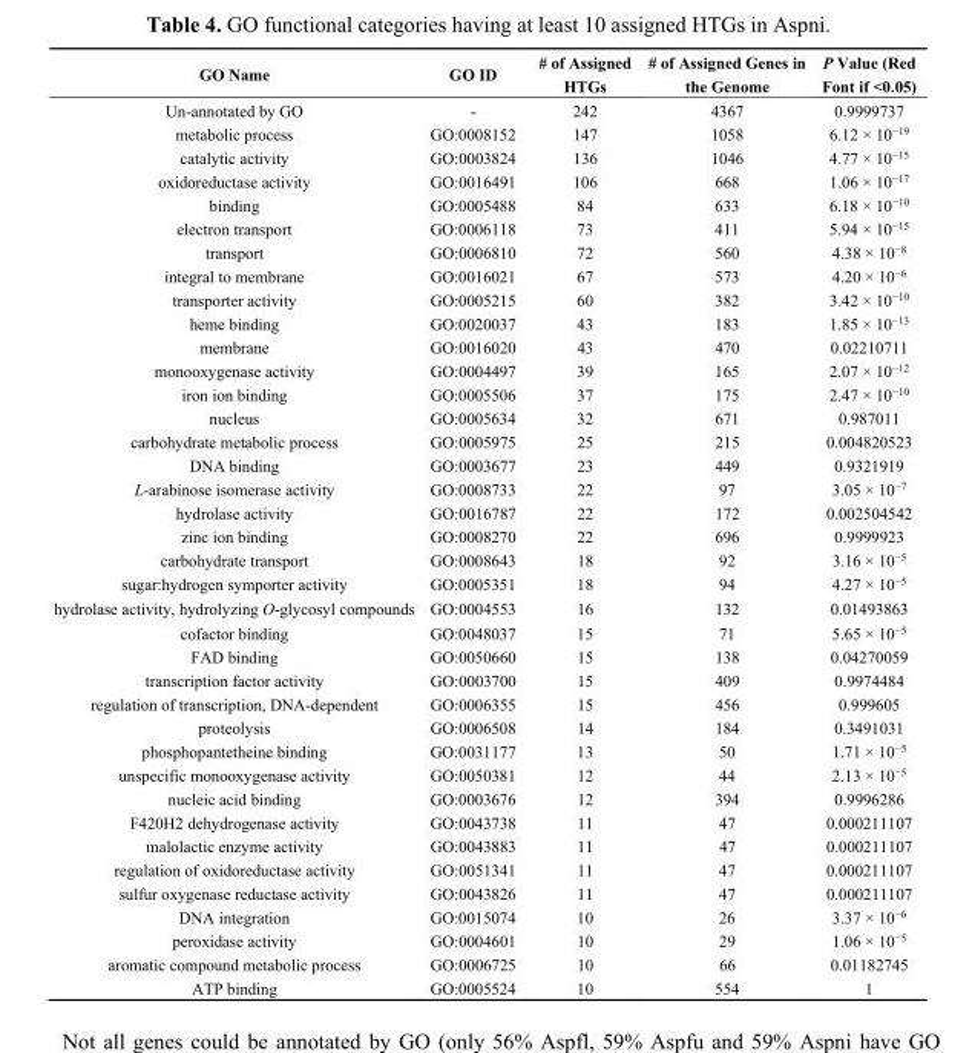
<table><thead><tr><td>GO Name</td><td>GO ID</td><td># of Assigned HTGs</td><td># of Assigned Genes in the Genome</td><td>P Value (Red Font if &lt;0.05)</td></tr></thead><tbody><tr><td>Un-annotated by GO</td><td>-</td><td>242</td><td>4367</td><td>0.9999737</td></tr><tr><td>metabolic process</td><td>GO:0008152</td><td>147</td><td>1058</td><td>6.12 × 10<sup>−19</sup></td></tr><tr><td>catalytic activity</td><td>GO:0003824</td><td>136</td><td>1046</td><td>4.77 × 10<sup>−15</sup></td></tr><tr><td>oxidoreductase activity</td><td>GO:0016491</td><td>106</td><td>668</td><td>1.06 × 10<sup>−17</sup></td></tr><tr><td>binding</td><td>GO:0005488</td><td>84</td><td>633</td><td>6.18 × 10<sup>−10</sup></td></tr><tr><td>electron transport</td><td>GO:0006118</td><td>73</td><td>411</td><td>5.94 × 10<sup>−15</sup></td></tr><tr><td>transport</td><td>GO:0006810</td><td>72</td><td>560</td><td>4.38 × 10<sup>−8</sup></td></tr><tr><td>integral to membrane</td><td>GO:0016021</td><td>67</td><td>573</td><td>4.20 × 10<sup>−6</sup></td></tr><tr><td>transporter activity</td><td>GO:0005215</td><td>60</td><td>382</td><td>3.42 × 10<sup>−10</sup></td></tr><tr><td>heme binding</td><td>GO:0020037</td><td>43</td><td>183</td><td>1.85 × 10<sup>−13</sup></td></tr><tr><td>membrane</td><td>GO:0016020</td><td>43</td><td>470</td><td>0.02210711</td></tr><tr><td>monooxygenase activity</td><td>GO:0004497</td><td>39</td><td>165</td><td>2.07 × 10<sup>−12</sup></td></tr><tr><td>iron ion binding</td><td>GO:0005506</td><td>37</td><td>175</td><td>2.47 × 10<sup>−10</sup></td></tr><tr><td>nucleus</td><td>GO:0005634</td><td>32</td><td>671</td><td>0.987011</td></tr><tr><td>carbohydrate metabolic process</td><td>GO:0005975</td><td>25</td><td>215</td><td>0.004820523</td></tr><tr><td>DNA binding</td><td>GO:0003677</td><td>23</td><td>449</td><td>0.9321919</td></tr><tr><td>L-arabinose isomerase activity</td><td>GO:0008733</td><td>22</td><td>97</td><td>3.05 × 10<sup>−7</sup></td></tr><tr><td>hydrolase activity</td><td>GO:0016787</td><td>22</td><td>172</td><td>0.002504542</td></tr><tr><td>zinc ion binding</td><td>GO:0008270</td><td>22</td><td>696</td><td>0.9999923</td></tr><tr><td>carbohydrate transport</td><td>GO:0008643</td><td>18</td><td>92</td><td>3.16 × 10<sup>−5</sup></td></tr><tr><td>sugar:hydrogen symporter activity</td><td>GO:0005351</td><td>18</td><td>94</td><td>4.27 × 10<sup>−5</sup></td></tr><tr><td>hydrolase activity, hydrolyzing O-glycosyl compounds</td><td>GO:0004553</td><td>16</td><td>132</td><td>0.01493863</td></tr><tr><td>cofactor binding</td><td>GO:0048037</td><td>15</td><td>71</td><td>5.65 × 10<sup>−5</sup></td></tr><tr><td>FAD binding</td><td>GO:0050660</td><td>15</td><td>138</td><td>0.04270059</td></tr><tr><td>transcription factor activity</td><td>GO:0003700</td><td>15</td><td>409</td><td>0.9974484</td></tr><tr><td>regulation of transcription, DNA-dependent</td><td>GO:0006355</td><td>15</td><td>456</td><td>0.999605</td></tr><tr><td>proteolysis</td><td>GO:0006508</td><td>14</td><td>184</td><td>0.3491031</td></tr><tr><td>phosphopantetheine binding</td><td>GO:0031177</td><td>13</td><td>50</td><td>1.71 × 10<sup>−5</sup></td></tr><tr><td>unspecific monooxygenase activity</td><td>GO:0050381</td><td>12</td><td>44</td><td>2.13 × 10<sup>−5</sup></td></tr><tr><td>nucleic acid binding</td><td>GO:0003676</td><td>12</td><td>394</td><td>0.9996286</td></tr><tr><td>F420H2 dehydrogenase activity</td><td>GO:0043738</td><td>11</td><td>47</td><td>0.000211107</td></tr><tr><td>malolactic enzyme activity</td><td>GO:0043883</td><td>11</td><td>47</td><td>0.000211107</td></tr><tr><td>regulation of oxidoreductase activity</td><td>GO:0051341</td><td>11</td><td>47</td><td>0.000211107</td></tr><tr><td>sulfur oxygenase reductase activity</td><td>GO:0043826</td><td>11</td><td>47</td><td>0.000211107</td></tr><tr><td>DNA integration</td><td>GO:0015074</td><td>10</td><td>26</td><td>3.37 × 10<sup>−6</sup></td></tr><tr><td>peroxidase activity</td><td>GO:0004601</td><td>10</td><td>29</td><td>1.06 × 10<sup>−5</sup></td></tr><tr><td>aromatic compound metabolic process</td><td>GO:0006725</td><td>10</td><td>66</td><td>0.01182745</td></tr><tr><td>ATP binding</td><td>GO:0005524</td><td>10</td><td>554</td><td>1</td></tr></tbody></table>